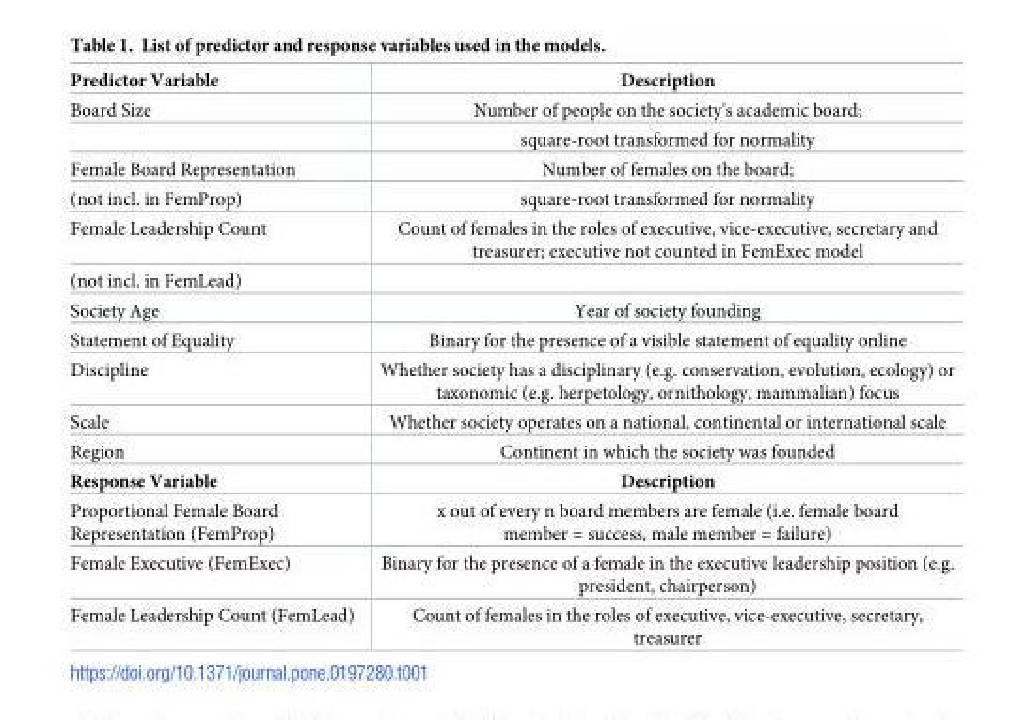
<table><tbody><tr><td>Predictor Variable</td><td>Description</td></tr><tr><td rowspan="2">Board Size</td><td>Number of people on the society’s academic board;</td></tr><tr><td>square-root transformed for normality</td></tr><tr><td>Female Board Representation</td><td>Number of females on the board;</td></tr><tr><td>(not incl. in FemProp)</td><td>square-root transformed for normality</td></tr><tr><td>Female Leadership Count</td><td>Count of females in the roles of executive, vice-executive, secretary and treasurer; executive not counted in FemExec model</td></tr><tr><td colspan="2">(not incl. in FemLead)</td></tr><tr><td>Society Age</td><td>Year of society founding</td></tr><tr><td>Statement of Equality</td><td>Binary for the presence of a visible statement of equality online</td></tr><tr><td>Discipline</td><td>Whether society has a disciplinary (e.g. conservation, evolution, ecology) or taxonomic (e.g. herpetology, ornithology, mammalian) focus</td></tr><tr><td>Scale</td><td>Whether society operates on a national, continental or international scale</td></tr><tr><td>Region</td><td>Continent in which the society was founded</td></tr><tr><td>Response Variable</td><td>Description</td></tr><tr><td>Proportional Female Board Representation (FemProp)</td><td>x out of every n board members are female (i.e. female board member = success, male member = failure)</td></tr><tr><td>Female Executive (FemExec)</td><td>Binary for the presence of a female in the executive leadership position (e.g. president, chairperson)</td></tr><tr><td>Female Leadership Count (FemLead)</td><td>Count of females in the roles of executive, vice-executive, secretary, treasurer</td></tr></tbody></table>